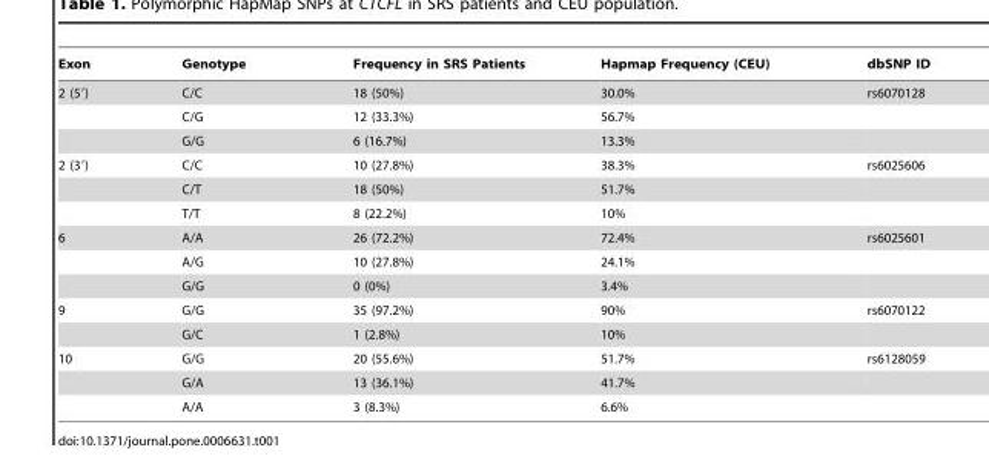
<table><thead><tr><td>Exon</td><td>Genotype</td><td>Frequency in SRS Patients</td><td>Hapmap Frequency (CEU)</td><td>dbSNP ID</td></tr></thead><tbody><tr><td rowspan="3">2 (5′)</td><td>C/C</td><td>18 (50%)</td><td>30.0%</td><td>rs6070128</td></tr><tr><td>C/G</td><td>12 (33.3%)</td><td>56.7%</td><td></td></tr><tr><td>G/G</td><td>6 (16.7%)</td><td>13.3%</td><td></td></tr><tr><td rowspan="3">2 (3′)</td><td>C/C</td><td>10 (27.8%)</td><td>38.3%</td><td>rs6025606</td></tr><tr><td>C/T</td><td>18 (50%)</td><td>51.7%</td><td></td></tr><tr><td>T/T</td><td>8 (22.2%)</td><td>10%</td><td></td></tr><tr><td rowspan="3">6</td><td>A/A</td><td>26 (72.2%)</td><td>72.4%</td><td>rs6025601</td></tr><tr><td>A/G</td><td>10 (27.8%)</td><td>24.1%</td><td></td></tr><tr><td>G/G</td><td>0 (0%)</td><td>3.4%</td><td></td></tr><tr><td rowspan="2">9</td><td>G/G</td><td>35 (97.2%)</td><td>90%</td><td>rs6070122</td></tr><tr><td>G/C</td><td>1 (2.8%)</td><td>10%</td><td></td></tr><tr><td rowspan="3">10</td><td>G/G</td><td>20 (55.6%)</td><td>51.7%</td><td>rs6128059</td></tr><tr><td>G/A</td><td>13 (36.1%)</td><td>41.7%</td><td></td></tr><tr><td>A/A</td><td>3 (8.3%)</td><td>6.6%</td><td></td></tr></tbody></table>